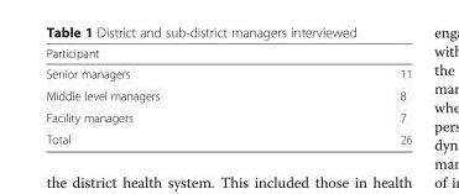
<table><thead><tr><td>Participant</td><td></td></tr></thead><tbody><tr><td>Senior managers</td><td>11</td></tr><tr><td>Middle level managers</td><td>8</td></tr><tr><td>Facility managers</td><td>7</td></tr><tr><td>Total</td><td>26</td></tr></tbody></table>